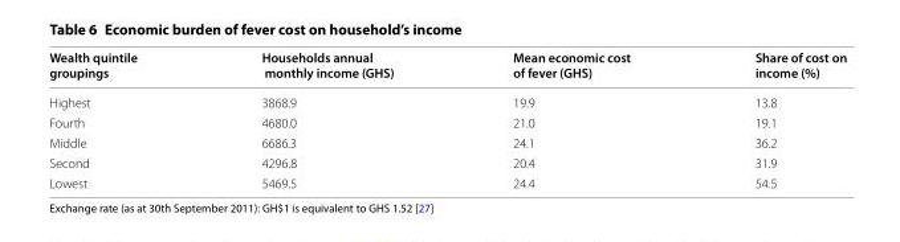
<table><thead><tr><td>Wealth quintile groupings</td><td>Households annual monthly income (GHS)</td><td>Mean economic cost of fever (GHS)</td><td>Share of cost on income (%)</td></tr></thead><tbody><tr><td>Highest</td><td>3868.9</td><td>19.9</td><td>13.8</td></tr><tr><td>Fourth</td><td>4680.0</td><td>21.0</td><td>19.1</td></tr><tr><td>Middle</td><td>6686.3</td><td>24.1</td><td>36.2</td></tr><tr><td>Second</td><td>4296.8</td><td>20.4</td><td>31.9</td></tr><tr><td>Lowest</td><td>5469.5</td><td>24.4</td><td>54.5</td></tr></tbody></table>